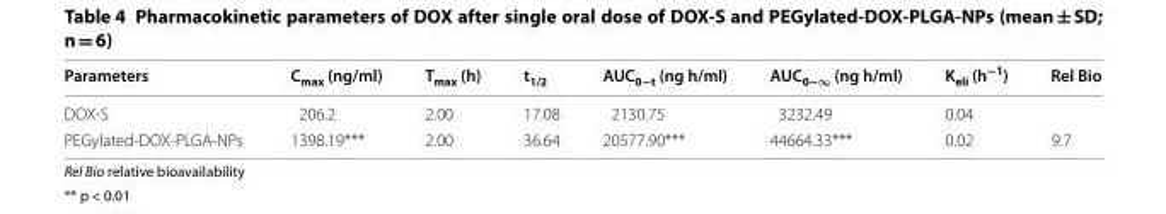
<table><thead><tr><td>Parameters</td><td>C<sub>max</sub> (ng/ml)</td><td>T<sub>max</sub> (h)</td><td>t<sub>1/2</sub></td><td>AUC <sub>0−t</sub> (ng h/ml)</td><td>AUC <sub>0−∞</sub> (ng h/ml)</td><td>K<sub>eli</sub> (h<sup>−1</sup>)</td><td>Rel Bio</td></tr></thead><tbody><tr><td>DOX-S</td><td>206.2</td><td>2.00</td><td>17.08</td><td>2130.75</td><td>3232.49</td><td>0.04</td><td></td></tr><tr><td>PEGylated-DOX-PLGA-NPs</td><td>1398.19***</td><td>2.00</td><td>36.64</td><td>20577.90***</td><td>44664.33***</td><td>0.02</td><td>9.7</td></tr></tbody></table>